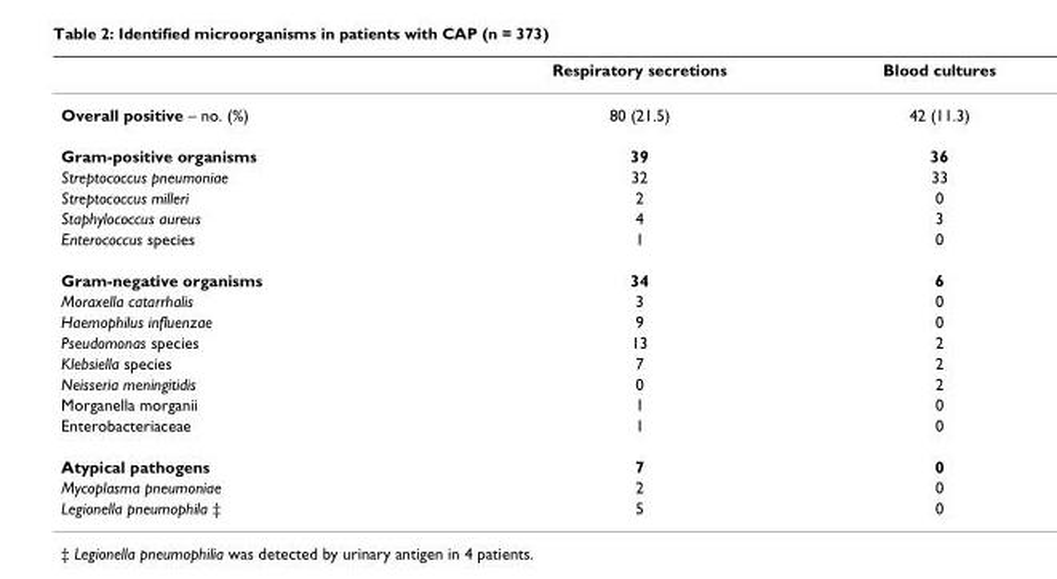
<table><thead><tr><td></td><td>Respiratory secretions</td><td>Blood cultures</td></tr></thead><tbody><tr><td>Overall positive – no. (%)</td><td>80 (21.5)</td><td>42 (11.3)</td></tr><tr><td>Gram-positive organisms</td><td>39</td><td>36</td></tr><tr><td>Streptococcus pneumoniae</td><td>32</td><td>33</td></tr><tr><td>Streptococcus milleri</td><td>2</td><td>0</td></tr><tr><td>Staphylococcus aureus</td><td>4</td><td>3</td></tr><tr><td>Enterococcus species</td><td>1</td><td>0</td></tr><tr><td>Gram-negative organisms</td><td>34</td><td>6</td></tr><tr><td>Moraxella catarrhalis</td><td>3</td><td>0</td></tr><tr><td>Haemophilus influenzae</td><td>9</td><td>0</td></tr><tr><td>Pseudomonas species</td><td>13</td><td>2</td></tr><tr><td>Klebsiella species</td><td>7</td><td>2</td></tr><tr><td>Neisseria meningitidis</td><td>0</td><td>2</td></tr><tr><td>Morganella morganii</td><td>1</td><td>0</td></tr><tr><td>Enterobacteriaceae</td><td>1</td><td>0</td></tr><tr><td>Atypical pathogens</td><td>7</td><td>0</td></tr><tr><td>Mycoplasma pneumoniae</td><td>2</td><td>0</td></tr><tr><td>Legionella pneumophila ‡</td><td>5</td><td>0</td></tr></tbody></table>